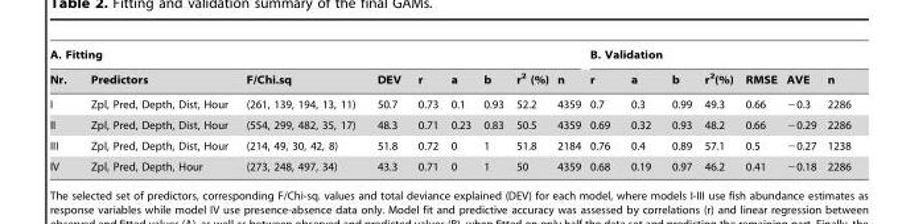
<table><thead><tr><td colspan="9">A. Fitting</td><td colspan="7">B. Validation</td></tr><tr><td>Nr.</td><td>Predictors</td><td>F/Chi.sq</td><td>DEV</td><td>r</td><td>a</td><td>b</td><td>r<sup>2</sup> (%)</td><td>n</td><td>r</td><td>a</td><td>b</td><td>r<sup>2</sup>(%)</td><td>RMSE</td><td>AVE</td><td>n</td></tr></thead><tbody><tr><td>I</td><td>Zpl, Pred, Depth, Dist, Hour</td><td>(261, 139, 194, 13, 11)</td><td>50.7</td><td>0.73</td><td>0.1</td><td>0.93</td><td>52.2</td><td>4359</td><td>0.7</td><td>0.3</td><td>0.99</td><td>49.3</td><td>0.66</td><td>−0.3</td><td>2286</td></tr><tr><td>II</td><td>Zpl, Pred, Depth, Dist, Hour</td><td>(554, 299, 482, 35, 17)</td><td>48.3</td><td>0.71</td><td>0.23</td><td>0.83</td><td>50.5</td><td>4359</td><td>0.69</td><td>0.32</td><td>0.93</td><td>48.2</td><td>0.66</td><td>−0.29</td><td>2286</td></tr><tr><td>III</td><td>Zpl, Pred, Depth, Dist, Hour</td><td>(214, 49, 30, 42, 8)</td><td>51.8</td><td>0.72</td><td>0</td><td>1</td><td>51.8</td><td>2184</td><td>0.76</td><td>0.4</td><td>0.89</td><td>57.1</td><td>0.5</td><td>−0.27</td><td>1238</td></tr><tr><td>IV</td><td>Zpl, Pred, Depth, Hour</td><td>(273, 248, 497, 34)</td><td>43.3</td><td>0.71</td><td>0</td><td>1</td><td>50</td><td>4359</td><td>0.68</td><td>0.19</td><td>0.97</td><td>46.2</td><td>0.41</td><td>−0.18</td><td>2286</td></tr></tbody></table>